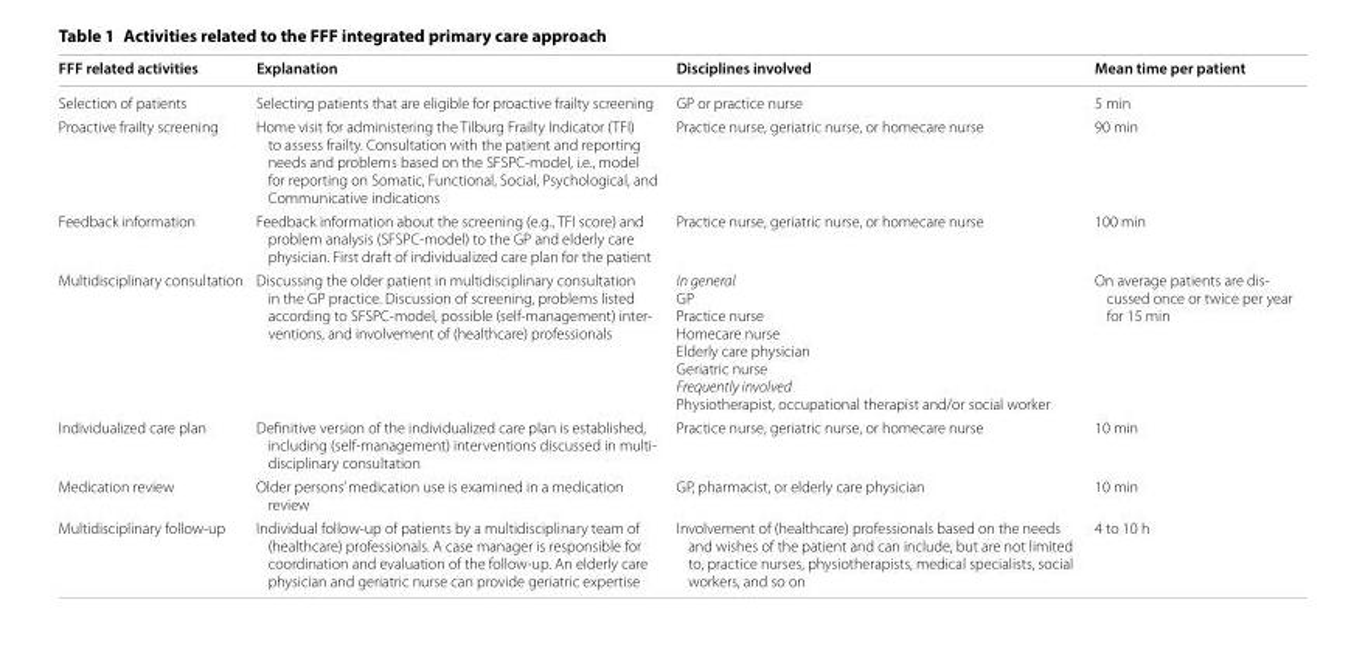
<table><thead><tr><td>FFF related activities</td><td>Explanation</td><td>Disciplines involved</td><td>Mean time per patient</td></tr></thead><tbody><tr><td>Selection of patients</td><td>Selecting patients that are eligible for proactive frailty screening</td><td>GP or practice nurse</td><td>5 min</td></tr><tr><td>Proactive frailty screening</td><td>Home visit for administering the Tilburg Frailty Indicator (TFI) to assess frailty. Consultation with the patient and reporting needs and problems based on the SFSPC-model, i.e., model for reporting on Somatic, Functional, Social, Psychological, and Communicative indications</td><td>Practice nurse, geriatric nurse, or homecare nurse</td><td>90 min</td></tr><tr><td>Feedback information</td><td>Feedback information about the screening (e.g., TFI score) and problem analysis (SFSPC-model) to the GP and elderly care physician. First draft of individualized care plan for the patient</td><td>Practice nurse, geriatric nurse, or homecare nurse</td><td>100 min</td></tr><tr><td>Multidisciplinary consultation</td><td>Discussing the older patient in multidisciplinary consultation in the GP practice. Discussion of screening, problems listed according to SFSPC-model, possible (self-management) inter- ventions, and involvement of (healthcare) professionals</td><td>In general GP Practice nurse Homecare nurse Elderly care physician Geriatric nurse Frequently involved Physiotherapist, occupational therapist and/or social worker</td><td>On average patients are dis- cussed once or twice per year for 15 min</td></tr><tr><td>Individualized care plan</td><td>Definitive version of the individualized care plan is established, including (self-management) interventions discussed in multi- disciplinary consultation</td><td>Practice nurse, geriatric nurse, or homecare nurse</td><td>10 min</td></tr><tr><td>Medication review</td><td>Older persons’ medication use is examined in a medication review</td><td>GP, pharmacist, or elderly care physician</td><td>10 min</td></tr><tr><td>Multidisciplinary follow-up</td><td>Individual follow-up of patients by a multidisciplinary team of (healthcare) professionals. A case manager is responsible for coordination and evaluation of the follow-up. An elderly care physician and geriatric nurse can provide geriatric expertise</td><td>Involvement of (healthcare) professionals based on the needs and wishes of the patient and can include, but are not limited to, practice nurses, physiotherapists, medical specialists, social workers, and so on</td><td>4 to 10 h</td></tr></tbody></table>